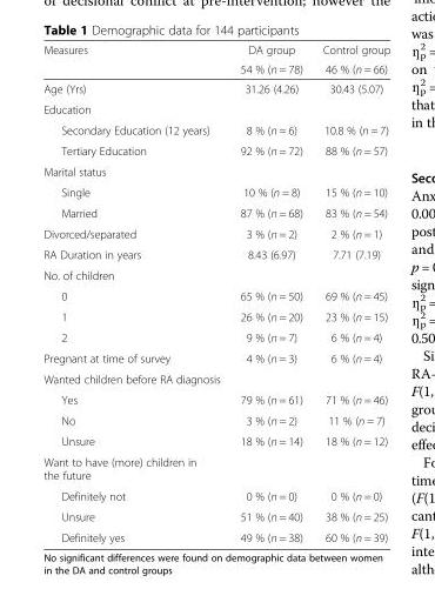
<table><thead><tr><td rowspan="2">Measures</td><td rowspan="2">DA group 54 % (n = 78)</td><td rowspan="2">Control group 46 % (n = 66)</td></tr><tr></tr></thead><tbody><tr><td>Age (Yrs)</td><td>31.26 (4.26)</td><td>30.43 (5.07)</td></tr><tr><td colspan="3">Education</td></tr><tr><td>Secondary Education (12 years)</td><td>8 % (n = 6)</td><td>10.8 % (n = 7)</td></tr><tr><td>Tertiary Education</td><td>92 % (n = 72)</td><td>88 % (n = 57)</td></tr><tr><td colspan="3">Marital status</td></tr><tr><td>Single</td><td>10 % (n = 8)</td><td>15 % (n = 10)</td></tr><tr><td>Married</td><td>87 % (n = 68)</td><td>83 % (n = 54)</td></tr><tr><td>Divorced/separated</td><td>3 % (n = 2)</td><td>2 % (n = 1)</td></tr><tr><td>RA Duration in years</td><td>8.43 (6.97)</td><td>7.71 (7.19)</td></tr><tr><td colspan="3">No. of children</td></tr><tr><td>0</td><td>65 % (n = 50)</td><td>69 % (n = 45)</td></tr><tr><td>1</td><td>26 % (n = 20)</td><td>23 % (n = 15)</td></tr><tr><td>2</td><td>9 % (n = 7)</td><td>6 % (n = 4)</td></tr><tr><td>Pregnant at time of survey</td><td>4 % (n = 3)</td><td>6 % (n = 4)</td></tr><tr><td colspan="3">Wanted children before RA diagnosis</td></tr><tr><td>Yes</td><td>79 % (n = 61)</td><td>71 % (n = 46)</td></tr><tr><td>No</td><td>3 % (n = 2)</td><td>11 % (n = 7)</td></tr><tr><td>Unsure</td><td>18 % (n = 14)</td><td>18 % (n = 12)</td></tr><tr><td colspan="3">Want to have (more) children in the future</td></tr><tr><td>Definitely not</td><td>0 % (n = 0)</td><td>0 % (n = 0)</td></tr><tr><td>Unsure</td><td>51 % (n = 40)</td><td>38 % (n = 25)</td></tr><tr><td>Definitely yes</td><td>49 % (n = 38)</td><td>60 % (n = 39)</td></tr></tbody></table>